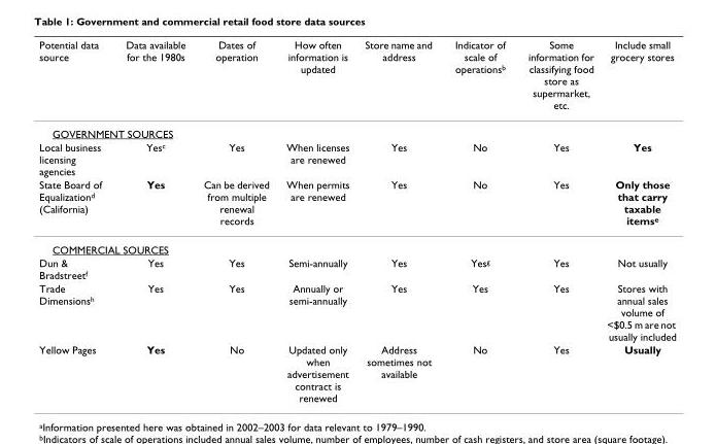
<table><thead><tr><td>Potential data source</td><td>Data available for the 1980s</td><td>Dates of operation</td><td>How often information is updated</td><td>Store name and address</td><td>Indicator of scale of operations<sup>b</sup></td><td>Some information for classifying food store as supermarket, etc.</td><td>Include small grocery stores</td></tr></thead><tbody><tr><td colspan="8">GOVERNMENT SOURCES</td></tr><tr><td>Local business licensing agencies</td><td>Yes<sup>c</sup></td><td>Yes</td><td>When licenses are renewed</td><td>Yes</td><td>No</td><td>Yes</td><td>Yes</td></tr><tr><td>State Board of Equalization<sup>d</sup> (California)</td><td>Yes</td><td>Can be derived from multiple renewal records</td><td>When permits are renewed</td><td>Yes</td><td>No</td><td>Yes</td><td>Only those that carry taxable items<sup>e</sup></td></tr><tr><td colspan="8">COMMERCIAL SOURCES</td></tr><tr><td>Dun &amp; Bradstreet<sup>f</sup></td><td>Yes</td><td>Yes</td><td>Semi-annually</td><td>Yes</td><td>Yes<sup>g</sup></td><td>Yes</td><td>Not usually</td></tr><tr><td>Trade Dimensions<sup>h</sup></td><td>Yes</td><td>Yes</td><td>Annually or semi-annually</td><td>Yes</td><td>Yes</td><td>Yes</td><td>Stores with annual sales volume of &lt;$0.5 m are not usually included</td></tr><tr><td>Yellow Pages</td><td>Yes</td><td>No</td><td>Updated only when advertisement contract is renewed</td><td>Address sometimes not available</td><td>No</td><td>Yes</td><td>Usually</td></tr></tbody></table>